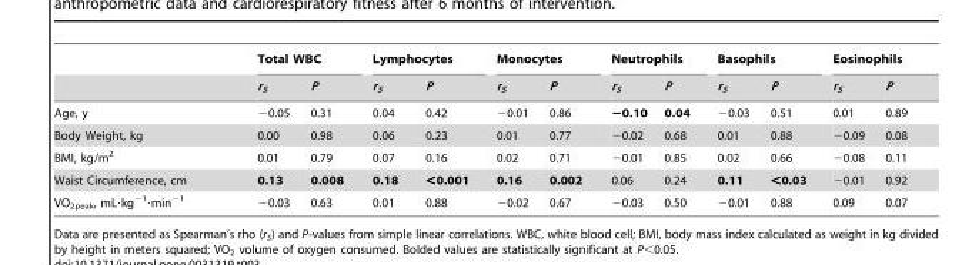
<table><thead><tr><td rowspan="2"></td><td colspan="2">Total WBC</td><td colspan="2">Lymphocytes</td><td colspan="2">Monocytes</td><td colspan="2">Neutrophils</td><td colspan="2">Basophils</td><td colspan="2">Eosinophils</td></tr><tr><td>r<sub>S</sub></td><td>P</td><td>r<sub>S</sub></td><td>P</td><td>r<sub>S</sub></td><td>P</td><td>r<sub>S</sub></td><td>P</td><td>r<sub>S</sub></td><td>P</td><td>r<sub>S</sub></td><td>P</td></tr></thead><tbody><tr><td>Age, y</td><td>−0.05</td><td>0.31</td><td>0.04</td><td>0.42</td><td>−0.01</td><td>0.86</td><td>−0.10</td><td>0.04</td><td>−0.03</td><td>0.51</td><td>0.01</td><td>0.89</td></tr><tr><td>Body Weight, kg</td><td>0.00</td><td>0.98</td><td>0.06</td><td>0.23</td><td>0.01</td><td>0.77</td><td>−0.02</td><td>0.68</td><td>0.01</td><td>0.88</td><td>−0.09</td><td>0.08</td></tr><tr><td>BMI, kg/m<sup>2</sup></td><td>0.01</td><td>0.79</td><td>0.07</td><td>0.16</td><td>0.02</td><td>0.71</td><td>−0.01</td><td>0.85</td><td>0.02</td><td>0.66</td><td>−0.08</td><td>0.11</td></tr><tr><td>Waist Circumference, cm</td><td>0.13</td><td>0.008</td><td>0.18</td><td>&lt;0.001</td><td>0.16</td><td>0.002</td><td>0.06</td><td>0.24</td><td>0.11</td><td>&lt;0.03</td><td>−0.01</td><td>0.92</td></tr><tr><td>VO<sub>2peak</sub>, mL⋅kg<sup>−1</sup>⋅min<sup>−1</sup></td><td>−0.03</td><td>0.63</td><td>0.01</td><td>0.88</td><td>−0.02</td><td>0.67</td><td>−0.03</td><td>0.50</td><td>−0.01</td><td>0.88</td><td>0.09</td><td>0.07</td></tr></tbody></table>